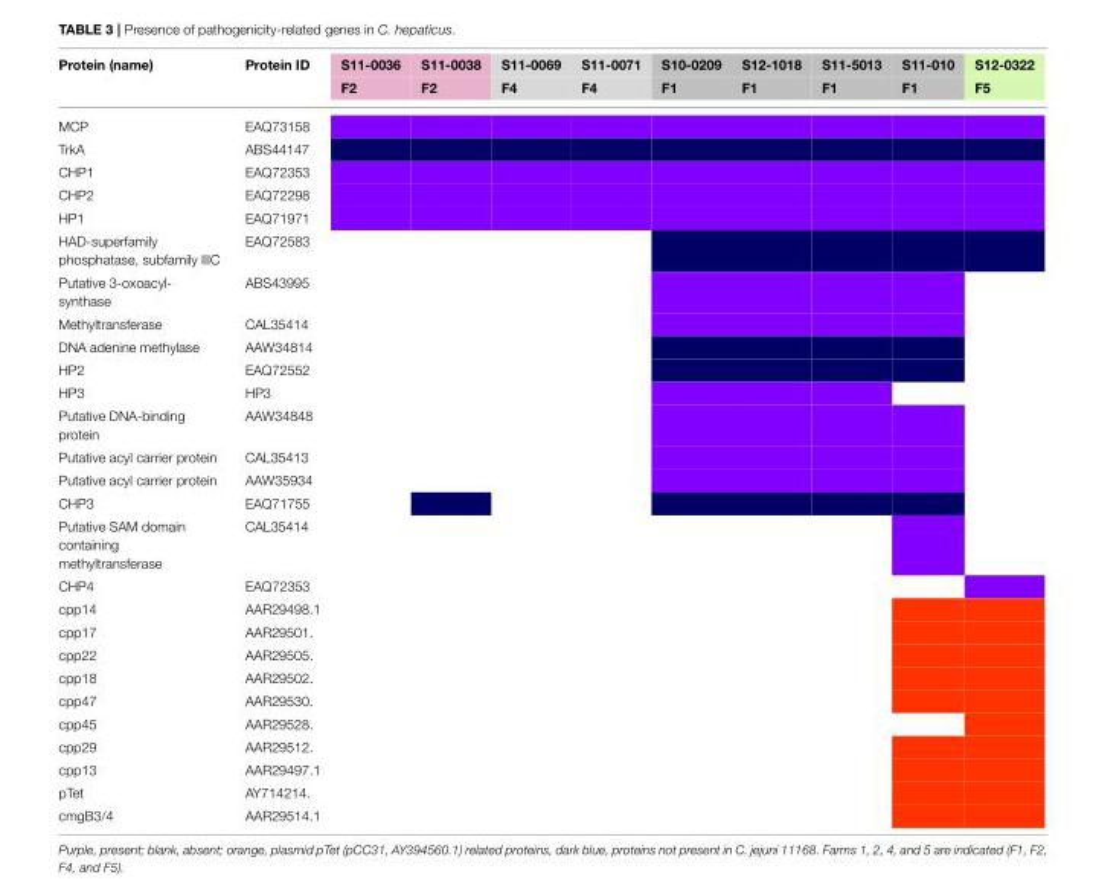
<table><thead><tr><td rowspan="2">Protein (name)</td><td rowspan="2">Protein ID</td><td rowspan="2">S11-0036 F2</td><td rowspan="2">S11-0038 F2</td><td rowspan="2">S11-0069 F4</td><td rowspan="2">S11-0071 F4</td><td rowspan="2">S10-0209 F1</td><td rowspan="2">S12-1018 F1</td><td rowspan="2">S11-5013 F1</td><td rowspan="2">S11-010 F1</td><td rowspan="2">S12-0322 F5</td></tr><tr></tr></thead><tbody><tr><td>MCP</td><td>EAQ73158</td><td></td><td></td><td></td><td></td><td></td><td></td><td></td><td></td><td></td></tr><tr><td>TrkA</td><td>ABS44147</td><td></td><td></td><td></td><td></td><td></td><td></td><td></td><td></td><td></td></tr><tr><td>CHP1</td><td>EAQ72353</td><td></td><td></td><td></td><td></td><td></td><td></td><td></td><td></td><td></td></tr><tr><td>CHP2</td><td>EAQ72298</td><td></td><td></td><td></td><td></td><td></td><td></td><td></td><td></td><td></td></tr><tr><td>HP1</td><td>EAQ71971</td><td></td><td></td><td></td><td></td><td></td><td></td><td></td><td></td><td></td></tr><tr><td>HAD-superfamily phosphatase, subfamily IIIC</td><td>EAQ72583</td><td></td><td></td><td></td><td></td><td></td><td></td><td></td><td></td><td></td></tr><tr><td>Putative 3-oxoacyl- synthase</td><td>ABS43995</td><td></td><td></td><td></td><td></td><td></td><td></td><td></td><td></td><td></td></tr><tr><td>Methyltransferase</td><td>CAL35414</td><td></td><td></td><td></td><td></td><td></td><td></td><td></td><td></td><td></td></tr><tr><td>DNA adenine methylase</td><td>AAW34814</td><td></td><td></td><td></td><td></td><td></td><td></td><td></td><td></td><td></td></tr><tr><td>HP2</td><td>EAQ72552</td><td></td><td></td><td></td><td></td><td></td><td></td><td></td><td></td><td></td></tr><tr><td>HP3</td><td>HP3</td><td></td><td></td><td></td><td></td><td></td><td></td><td></td><td></td><td></td></tr><tr><td>Putative DNA-binding protein</td><td>AAW34848</td><td></td><td></td><td></td><td></td><td></td><td></td><td></td><td></td><td></td></tr><tr><td>Putative acyl carrier protein</td><td>CAL35413</td><td></td><td></td><td></td><td></td><td></td><td></td><td></td><td></td><td></td></tr><tr><td>Putative acyl carrier protein</td><td>AAW35934</td><td></td><td></td><td></td><td></td><td></td><td></td><td></td><td></td><td></td></tr><tr><td>CHP3</td><td>EAQ71755</td><td></td><td></td><td></td><td></td><td></td><td></td><td></td><td></td><td></td></tr><tr><td>Putative SAM domain containing methyltransferase</td><td>CAL35414</td><td></td><td></td><td></td><td></td><td></td><td></td><td></td><td></td><td></td></tr><tr><td>CHP4</td><td>EAQ72353</td><td></td><td></td><td></td><td></td><td></td><td></td><td></td><td></td><td></td></tr><tr><td>cpp14</td><td>AAR29498.1</td><td></td><td></td><td></td><td></td><td></td><td></td><td></td><td></td><td></td></tr><tr><td>cpp17</td><td>AAR29501.</td><td></td><td></td><td></td><td></td><td></td><td></td><td></td><td></td><td></td></tr><tr><td>cpp22</td><td>AAR29505.</td><td></td><td></td><td></td><td></td><td></td><td></td><td></td><td></td><td></td></tr><tr><td>cpp18</td><td>AAR29502.</td><td></td><td></td><td></td><td></td><td></td><td></td><td></td><td></td><td></td></tr><tr><td>cpp47</td><td>AAR29530.</td><td></td><td></td><td></td><td></td><td></td><td></td><td></td><td></td><td></td></tr><tr><td>cpp45</td><td>AAR29528.</td><td></td><td></td><td></td><td></td><td></td><td></td><td></td><td></td><td></td></tr><tr><td>cpp29</td><td>AAR29512.</td><td></td><td></td><td></td><td></td><td></td><td></td><td></td><td></td><td></td></tr><tr><td>cpp13</td><td>AAR29497.1</td><td></td><td></td><td></td><td></td><td></td><td></td><td></td><td></td><td></td></tr><tr><td>pTet</td><td>AY714214.</td><td></td><td></td><td></td><td></td><td></td><td></td><td></td><td></td><td></td></tr><tr><td>cmgB3/4</td><td>AAR29514.1</td><td></td><td></td><td></td><td></td><td></td><td></td><td></td><td></td><td></td></tr></tbody></table>